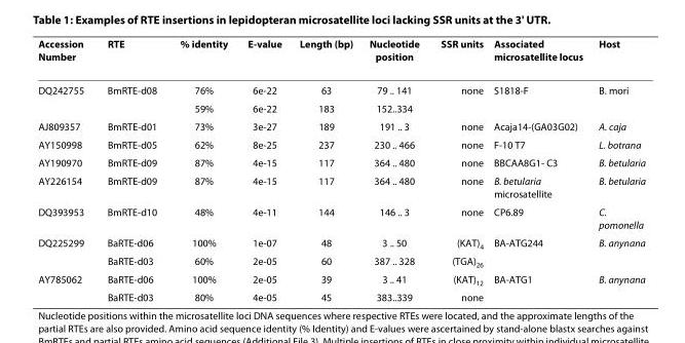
<table><thead><tr><td>Accession Number</td><td>RTE</td><td>% identity</td><td>E-value</td><td>Length (bp)</td><td>Nucleotide position</td><td>SSR units</td><td>Associated microsatellite locus</td><td>Host</td></tr></thead><tbody><tr><td rowspan="2">DQ242755</td><td>BmRTE-d08</td><td>76%</td><td>6e-22</td><td>63</td><td>79 .. 141</td><td>none</td><td>S1818-F</td><td>B. mori</td></tr><tr><td></td><td>59%</td><td>6e-22</td><td>183</td><td>152..334</td><td></td><td></td><td></td></tr><tr><td>AJ809357</td><td>BmRTE-d01</td><td>73%</td><td>3e-27</td><td>189</td><td>191 .. 3</td><td>none</td><td>Acaja14-(GA03G02)</td><td>A. caja</td></tr><tr><td>AY150998</td><td>BmRTE-d05</td><td>62%</td><td>8e-25</td><td>237</td><td>230 .. 466</td><td>none</td><td>F-10 T7</td><td>L. botrana</td></tr><tr><td>AY190970</td><td>BmRTE-d09</td><td>87%</td><td>4e-15</td><td>117</td><td>364 .. 480</td><td>none</td><td>BBCAA8G1- C3</td><td>B. betularia</td></tr><tr><td>AY226154</td><td>BmRTE-d09</td><td>87%</td><td>4e-15</td><td>117</td><td>364 .. 480</td><td>none</td><td>B. betularia microsatellite</td><td>B. betularia</td></tr><tr><td>DQ393953</td><td>BmRTE-d10</td><td>48%</td><td>4e-11</td><td>144</td><td>146 .. 3</td><td>none</td><td>CP6.89</td><td>C. pomonella</td></tr><tr><td rowspan="2">DQ225299</td><td>BaRTE-d06</td><td>100%</td><td>1e-07</td><td>48</td><td>3 .. 50</td><td>(KAT)<sub>4</sub></td><td>BA-ATG244</td><td>B. anynana</td></tr><tr><td>BaRTE-d03</td><td>60%</td><td>2e-05</td><td>60</td><td>387 .. 328</td><td>(TGA)<sub>26</sub></td><td></td><td></td></tr><tr><td rowspan="2">AY785062</td><td>BaRTE-d06</td><td>100%</td><td>2e-05</td><td>39</td><td>3 .. 41</td><td>(KAT)<sub>12</sub></td><td>BA-ATG1</td><td>B. anynana</td></tr><tr><td>BaRTE-d03</td><td>80%</td><td>4e-05</td><td>45</td><td>383..339</td><td>none</td><td></td><td></td></tr></tbody></table>